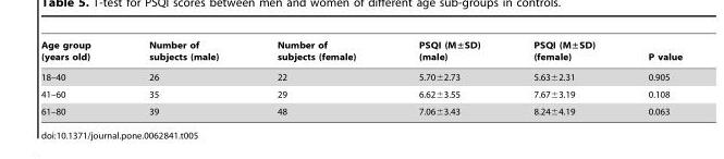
<table><thead><tr><td>Age group (years old)</td><td>Number of subjects (male)</td><td>Number of subjects (female)</td><td>PSQI (M±SD) (male)</td><td>PSQI (M±SD) (female)</td><td>P value</td></tr></thead><tbody><tr><td>18–40</td><td>26</td><td>22</td><td>5.70±2.73</td><td>5.63±2.31</td><td>0.905</td></tr><tr><td>41–60</td><td>35</td><td>29</td><td>6.62±3.55</td><td>7.67±3.19</td><td>0.108</td></tr><tr><td>61–80</td><td>39</td><td>48</td><td>7.06±3.43</td><td>8.24±4.19</td><td>0.063</td></tr></tbody></table>